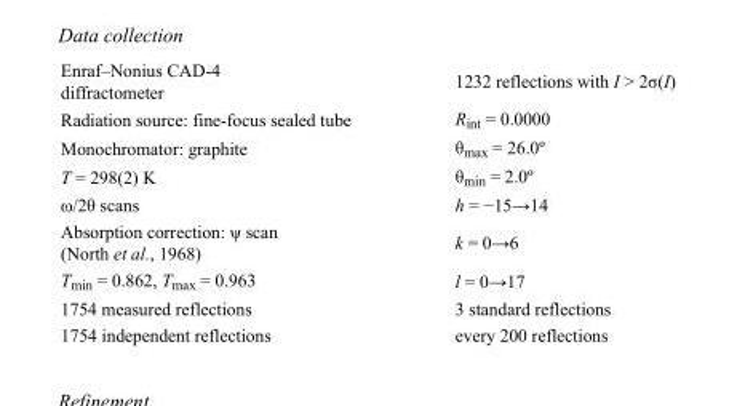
<table><tbody><tr><td>Enraf–Nonius CAD-4 diffractometer</td><td>1232 reflections with I &gt; 2σ(I)</td></tr><tr><td>Radiation source: fine-focus sealed tube</td><td>R<sub>int</sub> = 0.0000</td></tr><tr><td>Monochromator: graphite</td><td>θ<sub>max</sub> = 26.0º</td></tr><tr><td>T = 298(2) K</td><td>θ<sub>min</sub> = 2.0º</td></tr><tr><td>ω/2θ scans</td><td>h = −15→14</td></tr><tr><td>Absorption correction: ψ scan (North et al., 1968)</td><td>k = 0→6</td></tr><tr><td>T<sub>min</sub> = 0.862, T<sub>max</sub> = 0.963</td><td>l = 0→17</td></tr><tr><td>1754 measured reflections</td><td>3 standard reflections</td></tr><tr><td>1754 independent reflections</td><td>every 200 reflections</td></tr></tbody></table>